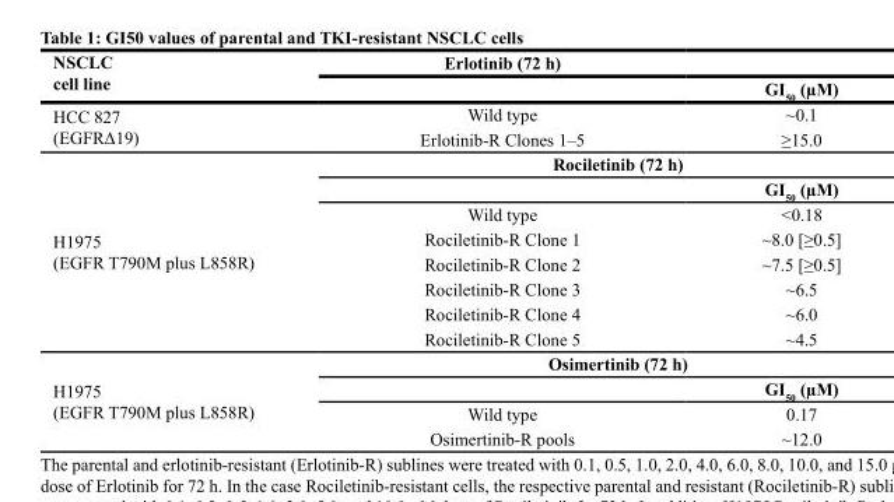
<table><thead><tr><td rowspan="2">nscLc cell line</td><td rowspan="2">Erlotinib (72 h)</td><td rowspan="2">GI<sub>50</sub> (µM)</td></tr><tr></tr></thead><tbody><tr><td rowspan="2">HCC 827 (EGFRΔ19)</td><td>Wild type</td><td>~0.1</td></tr><tr><td>Erlotinib-R Clones 1–5</td><td>≥15.0</td></tr><tr><td rowspan="8">H1975 (EGFR T790M plus L858R)</td><td colspan="2">rociletinib (72 h)</td></tr><tr><td></td><td>GI<sub>50</sub> (µM)</td></tr><tr><td>Wild type</td><td>&lt;0.18</td></tr><tr><td>Rociletinib-R Clone 1</td><td>~8.0 [≥0.5]</td></tr><tr><td>Rociletinib-R Clone 2</td><td>~7.5 [≥0.5]</td></tr><tr><td>Rociletinib-R Clone 3</td><td>~6.5</td></tr><tr><td>Rociletinib-R Clone 4</td><td>~6.0</td></tr><tr><td>Rociletinib-R Clone 5</td><td>~4.5</td></tr><tr><td rowspan="4">H1975 (EGFR T790M plus L858R)</td><td colspan="2">osimertinib (72 h)</td></tr><tr><td></td><td>GI<sub>50</sub> (µM)</td></tr><tr><td>Wild type</td><td>0.17</td></tr><tr><td>Osimertinib-R pools</td><td>~12.0</td></tr></tbody></table>